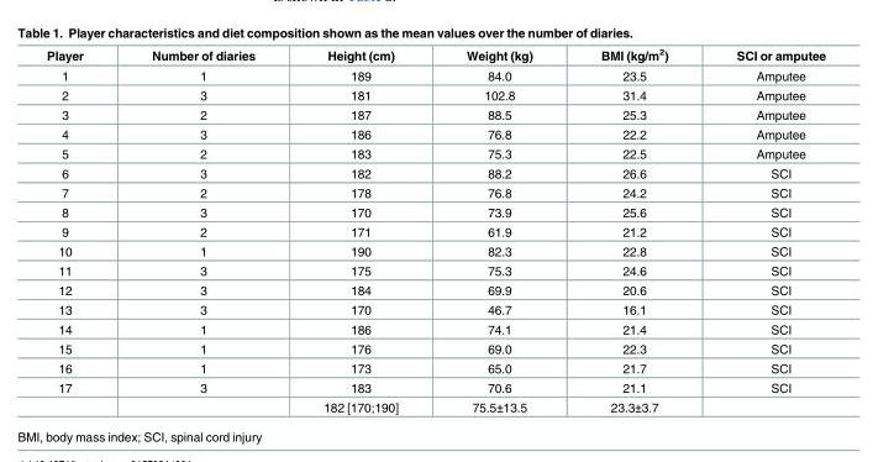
<table><thead><tr><td>Player</td><td>Number of diaries</td><td>Height (cm)</td><td>Weight (kg)</td><td>BMI (kg/m<sup>2</sup>)</td><td>SCI or amputee</td></tr></thead><tbody><tr><td>1</td><td>1</td><td>189</td><td>84.0</td><td>23.5</td><td>Amputee</td></tr><tr><td>2</td><td>3</td><td>181</td><td>102.8</td><td>31.4</td><td>Amputee</td></tr><tr><td>3</td><td>2</td><td>187</td><td>88.5</td><td>25.3</td><td>Amputee</td></tr><tr><td>4</td><td>3</td><td>186</td><td>76.8</td><td>22.2</td><td>Amputee</td></tr><tr><td>5</td><td>2</td><td>183</td><td>75.3</td><td>22.5</td><td>Amputee</td></tr><tr><td>6</td><td>3</td><td>182</td><td>88.2</td><td>26.6</td><td>SCI</td></tr><tr><td>7</td><td>2</td><td>178</td><td>76.8</td><td>24.2</td><td>SCI</td></tr><tr><td>8</td><td>3</td><td>170</td><td>73.9</td><td>25.6</td><td>SCI</td></tr><tr><td>9</td><td>2</td><td>171</td><td>61.9</td><td>21.2</td><td>SCI</td></tr><tr><td>10</td><td>1</td><td>190</td><td>82.3</td><td>22.8</td><td>SCI</td></tr><tr><td>11</td><td>3</td><td>175</td><td>75.3</td><td>24.6</td><td>SCI</td></tr><tr><td>12</td><td>3</td><td>184</td><td>69.9</td><td>20.6</td><td>SCI</td></tr><tr><td>13</td><td>3</td><td>170</td><td>46.7</td><td>16.1</td><td>SCI</td></tr><tr><td>14</td><td>1</td><td>186</td><td>74.1</td><td>21.4</td><td>SCI</td></tr><tr><td>15</td><td>1</td><td>176</td><td>69.0</td><td>22.3</td><td>SCI</td></tr><tr><td>16</td><td>1</td><td>173</td><td>65.0</td><td>21.7</td><td>SCI</td></tr><tr><td rowspan="2">17</td><td>3</td><td>183</td><td>70.6</td><td>21.1</td><td>SCI</td></tr><tr><td></td><td>182 [170;190]</td><td>75.5±13.5</td><td>23.3±3.7</td><td></td></tr></tbody></table>